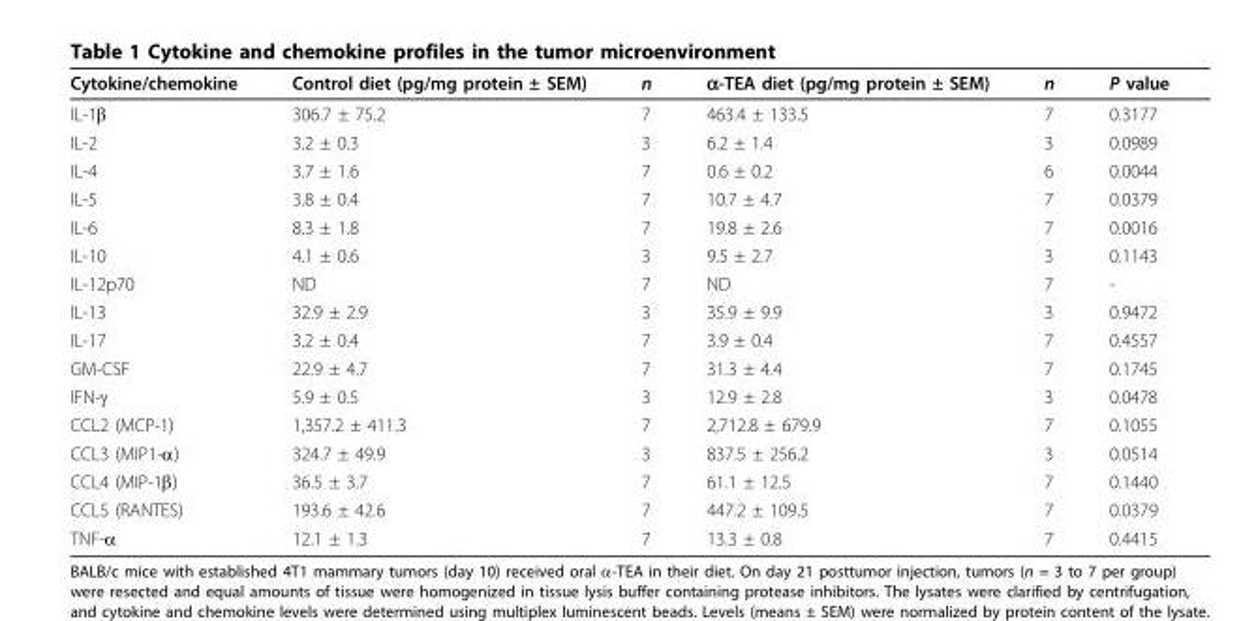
<table><thead><tr><td>Cytokine/chemokine</td><td>Control diet (pg/mg protein ± SEM)</td><td>n</td><td>α-TEA diet (pg/mg protein ± SEM)</td><td>n</td><td>P value</td></tr></thead><tbody><tr><td>IL-1β</td><td>306.7 ± 75.2</td><td>7</td><td>463.4 ± 133.5</td><td>7</td><td>0.3177</td></tr><tr><td>IL-2</td><td>3.2 ± 0.3</td><td>3</td><td>6.2 ± 1.4</td><td>3</td><td>0.0989</td></tr><tr><td>IL-4</td><td>3.7 ± 1.6</td><td>7</td><td>0.6 ± 0.2</td><td>6</td><td>0.0044</td></tr><tr><td>IL-5</td><td>3.8 ± 0.4</td><td>7</td><td>10.7 ± 4.7</td><td>7</td><td>0.0379</td></tr><tr><td>IL-6</td><td>8.3 ± 1.8</td><td>7</td><td>19.8 ± 2.6</td><td>7</td><td>0.0016</td></tr><tr><td>IL-10</td><td>4.1 ± 0.6</td><td>3</td><td>9.5 ± 2.7</td><td>3</td><td>0.1143</td></tr><tr><td>IL-12p70</td><td>ND</td><td>7</td><td>ND</td><td>7</td><td>-</td></tr><tr><td>IL-13</td><td>32.9 ± 2.9</td><td>3</td><td>35.9 ± 9.9</td><td>3</td><td>0.9472</td></tr><tr><td>IL-17</td><td>3.2 ± 0.4</td><td>7</td><td>3.9 ± 0.4</td><td>7</td><td>0.4557</td></tr><tr><td>GM-CSF</td><td>22.9 ± 4.7</td><td>7</td><td>31.3 ± 4.4</td><td>7</td><td>0.1745</td></tr><tr><td>IFN-γ</td><td>5.9 ± 0.5</td><td>3</td><td>12.9 ± 2.8</td><td>3</td><td>0.0478</td></tr><tr><td>CCL2 (MCP-1)</td><td>1,357.2 ± 411.3</td><td>7</td><td>2,712.8 ± 679.9</td><td>7</td><td>0.1055</td></tr><tr><td>CCL3 (MIP1-α)</td><td>324.7 ± 49.9</td><td>3</td><td>837.5 ± 256.2</td><td>3</td><td>0.0514</td></tr><tr><td>CCL4 (MIP-1β)</td><td>36.5 ± 3.7</td><td>7</td><td>61.1 ± 12.5</td><td>7</td><td>0.1440</td></tr><tr><td>CCL5 (RANTES)</td><td>193.6 ± 42.6</td><td>7</td><td>447.2 ± 109.5</td><td>7</td><td>0.0379</td></tr><tr><td>TNF-α</td><td>12.1 ± 1.3</td><td>7</td><td>13.3 ± 0.8</td><td>7</td><td>0.4415</td></tr></tbody></table>